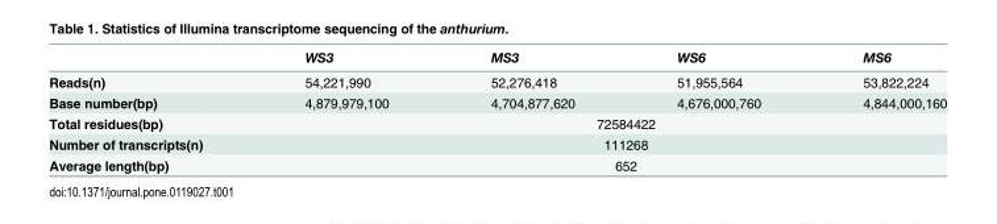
<table><thead><tr><td></td><td>WS3</td><td>MS3</td><td>WS6</td><td>MS6</td></tr></thead><tbody><tr><td>Reads(n)</td><td>54,221,990</td><td>52,276,418</td><td>51,955,564</td><td>53,822,224</td></tr><tr><td>Base number(bp)</td><td>4,879,979,100</td><td>4,704,877,620</td><td>4,676,000,760</td><td>4,844,000,160</td></tr><tr><td>Total residues(bp)</td><td colspan="4">72584422</td></tr><tr><td>Number of transcripts(n)</td><td colspan="4">111268</td></tr><tr><td>Average length(bp)</td><td colspan="4">652</td></tr></tbody></table>